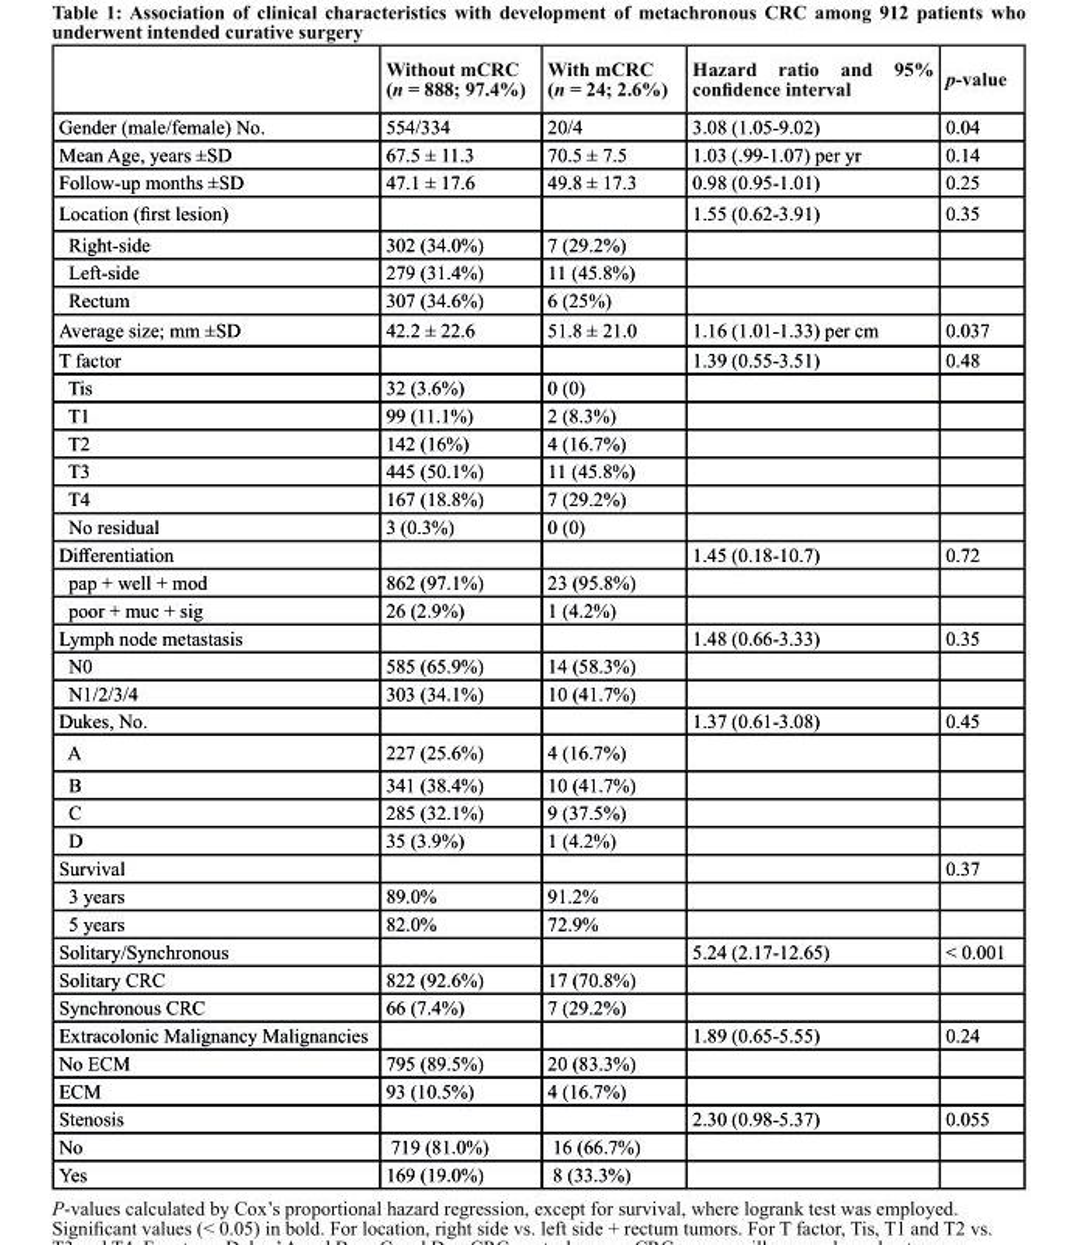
<table><thead><tr><td></td><td>Without mcrc (n = 888; 97.4%)</td><td>With mcrc (n = 24; 2.6%)</td><td>Hazard ratio and 95% confidence interval</td><td>p-value</td></tr></thead><tbody><tr><td>Gender (male/female) No.</td><td>554/334</td><td>20/4</td><td>3.08 (1.05-9.02)</td><td>0.04</td></tr><tr><td>Mean Age, years ±SD</td><td>67.5 ± 11.3</td><td>70.5 ± 7.5</td><td>1.03 (.99-1.07) per yr</td><td>0.14</td></tr><tr><td>Follow-up months ±SD</td><td>47.1 ± 17.6</td><td>49.8 ± 17.3</td><td>0.98 (0.95-1.01)</td><td>0.25</td></tr><tr><td>Location (first lesion)</td><td></td><td></td><td>1.55 (0.62-3.91)</td><td>0.35</td></tr><tr><td>Right-side</td><td>302 (34.0%)</td><td>7 (29.2%)</td><td></td><td></td></tr><tr><td>Left-side</td><td>279 (31.4%)</td><td>11 (45.8%)</td><td></td><td></td></tr><tr><td>Rectum</td><td>307 (34.6%)</td><td>6 (25%)</td><td></td><td></td></tr><tr><td>Average size; mm ±SD</td><td>42.2 ± 22.6</td><td>51.8 ± 21.0</td><td>1.16 (1.01-1.33) per cm</td><td>0.037</td></tr><tr><td>T factor</td><td></td><td></td><td>1.39 (0.55-3.51)</td><td>0.48</td></tr><tr><td>Tis</td><td>32 (3.6%)</td><td>0 (0)</td><td></td><td></td></tr><tr><td>T1</td><td>99 (11.1%)</td><td>2 (8.3%)</td><td></td><td></td></tr><tr><td>T2</td><td>142 (16%)</td><td>4 (16.7%)</td><td></td><td></td></tr><tr><td>T3</td><td>445 (50.1%)</td><td>11 (45.8%)</td><td></td><td></td></tr><tr><td>T4</td><td>167 (18.8%)</td><td>7 (29.2%)</td><td></td><td></td></tr><tr><td>No residual</td><td>3 (0.3%)</td><td>0 (0)</td><td></td><td></td></tr><tr><td>Differentiation</td><td></td><td></td><td>1.45 (0.18-10.7)</td><td>0.72</td></tr><tr><td>pap + well + mod</td><td>862 (97.1%)</td><td>23 (95.8%)</td><td></td><td></td></tr><tr><td>poor + muc + sig</td><td>26 (2.9%)</td><td>1 (4.2%)</td><td></td><td></td></tr><tr><td>Lymph node metastasis</td><td></td><td></td><td>1.48 (0.66-3.33)</td><td>0.35</td></tr><tr><td>N0</td><td>585 (65.9%)</td><td>14 (58.3%)</td><td></td><td></td></tr><tr><td>N1/2/3/4</td><td>303 (34.1%)</td><td>10 (41.7%)</td><td></td><td></td></tr><tr><td>Dukes, No.</td><td></td><td></td><td>1.37 (0.61-3.08)</td><td>0.45</td></tr><tr><td>A</td><td>227 (25.6%)</td><td>4 (16.7%)</td><td></td><td></td></tr><tr><td>B</td><td>341 (38.4%)</td><td>10 (41.7%)</td><td></td><td></td></tr><tr><td>C</td><td>285 (32.1%)</td><td>9 (37.5%)</td><td></td><td></td></tr><tr><td>D</td><td>35 (3.9%)</td><td>1 (4.2%)</td><td></td><td></td></tr><tr><td>Survival</td><td></td><td></td><td></td><td>0.37</td></tr><tr><td>3 years</td><td>89.0%</td><td>91.2%</td><td></td><td></td></tr><tr><td>5 years</td><td>82.0%</td><td>72.9%</td><td></td><td></td></tr><tr><td>Solitary/Synchronous</td><td></td><td></td><td>5.24 (2.17-12.65)</td><td>&lt; 0.001</td></tr><tr><td>Solitary CRC</td><td>822 (92.6%)</td><td>17 (70.8%)</td><td></td><td></td></tr><tr><td>Synchronous CRC</td><td>66 (7.4%)</td><td>7 (29.2%)</td><td></td><td></td></tr><tr><td>Extracolonic Malignancy Malignancies</td><td></td><td></td><td>1.89 (0.65-5.55)</td><td>0.24</td></tr><tr><td>No ECM</td><td>795 (89.5%)</td><td>20 (83.3%)</td><td></td><td></td></tr><tr><td>ECM</td><td>93 (10.5%)</td><td>4 (16.7%)</td><td></td><td></td></tr><tr><td>Stenosis</td><td></td><td></td><td>2.30 (0.98-5.37)</td><td>0.055</td></tr><tr><td>No</td><td>719 (81.0%)</td><td>16 (66.7%)</td><td></td><td></td></tr><tr><td>Yes</td><td>169 (19.0%)</td><td>8 (33.3%)</td><td></td><td></td></tr></tbody></table>